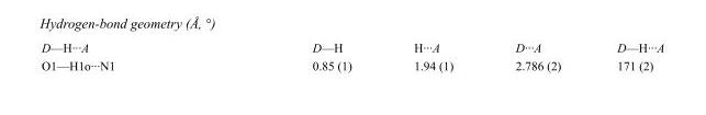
<table><tbody><tr><td>D—H···A</td><td>D—H</td><td>H···A</td><td>D···A</td><td>D—H···A</td></tr><tr><td>O1—H1o···N1</td><td>0.85 (1)</td><td>1.94 (1)</td><td>2.786 (2)</td><td>171 (2)</td></tr></tbody></table>